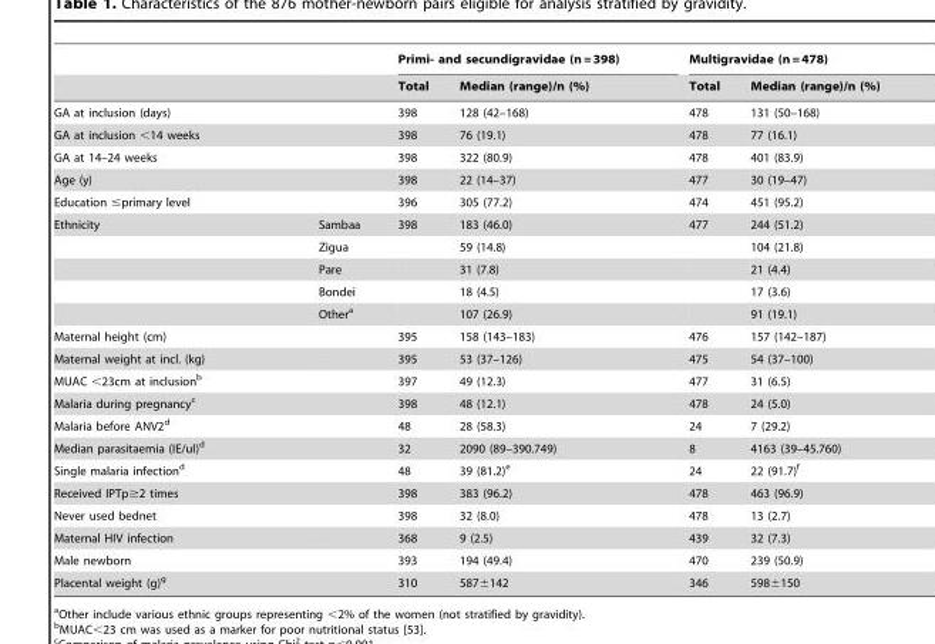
<table><thead><tr><td rowspan="2"></td><td rowspan="2"></td><td colspan="2">Primi- and secundigravidae (n = 398)</td><td colspan="2">Multigravidae (n = 478)</td></tr><tr><td>Total</td><td>Median (range)/n (%)</td><td>Total</td><td>Median (range)/n (%)</td></tr></thead><tbody><tr><td>GA at inclusion (days)</td><td></td><td>398</td><td>128 (42–168)</td><td>478</td><td>131 (50–168)</td></tr><tr><td>GA at inclusion &lt;14 weeks</td><td></td><td>398</td><td>76 (19.1)</td><td>478</td><td>77 (16.1)</td></tr><tr><td>GA at 14–24 weeks</td><td></td><td>398</td><td>322 (80.9)</td><td>478</td><td>401 (83.9)</td></tr><tr><td>Age (y)</td><td></td><td>398</td><td>22 (14–37)</td><td>477</td><td>30 (19–47)</td></tr><tr><td>Education ≤primary level</td><td></td><td>396</td><td>305 (77.2)</td><td>474</td><td>451 (95.2)</td></tr><tr><td rowspan="5">Ethnicity</td><td>Sambaa</td><td>398</td><td>183 (46.0)</td><td>477</td><td>244 (51.2)</td></tr><tr><td>Zigua</td><td></td><td>59 (14.8)</td><td></td><td>104 (21.8)</td></tr><tr><td>Pare</td><td></td><td>31 (7.8)</td><td></td><td>21 (4.4)</td></tr><tr><td>Bondei</td><td></td><td>18 (4.5)</td><td></td><td>17 (3.6)</td></tr><tr><td>Other<sup>a</sup></td><td></td><td>107 (26.9)</td><td></td><td>91 (19.1)</td></tr><tr><td>Maternal height (cm)</td><td></td><td>395</td><td>158 (143–183)</td><td>476</td><td>157 (142–187)</td></tr><tr><td>Maternal weight at incl. (kg)</td><td></td><td>395</td><td>53 (37–126)</td><td>475</td><td>54 (37–100)</td></tr><tr><td>MUAC &lt;23cm at inclusion<sup>b</sup></td><td></td><td>397</td><td>49 (12.3)</td><td>477</td><td>31 (6.5)</td></tr><tr><td>Malaria during pregnancy<sup>c</sup></td><td></td><td>398</td><td>48 (12.1)</td><td>478</td><td>24 (5.0)</td></tr><tr><td>Malaria before ANV2<sup>d</sup></td><td></td><td>48</td><td>28 (58.3)</td><td>24</td><td>7 (29.2)</td></tr><tr><td>Median parasitaemia (IE/ul)<sup>d</sup></td><td></td><td>32</td><td>2090 (89–390.749)</td><td>8</td><td>4163 (39–45.760)</td></tr><tr><td>Single malaria infection<sup>d</sup></td><td></td><td>48</td><td>39 (81.2)<sup>e</sup></td><td>24</td><td>22 (91.7)<sup>f</sup></td></tr><tr><td>Received IPTp≥2 times</td><td></td><td>398</td><td>383 (96.2)</td><td>478</td><td>463 (96.9)</td></tr><tr><td>Never used bednet</td><td></td><td>398</td><td>32 (8.0)</td><td>478</td><td>13 (2.7)</td></tr><tr><td>Maternal HIV infection</td><td></td><td>368</td><td>9 (2.5)</td><td>439</td><td>32 (7.3)</td></tr><tr><td>Male newborn</td><td></td><td>393</td><td>194 (49.4)</td><td>470</td><td>239 (50.9)</td></tr><tr><td>Placental weight (g)<sup>g</sup></td><td></td><td>310</td><td>587±142</td><td>346</td><td>598±150</td></tr></tbody></table>